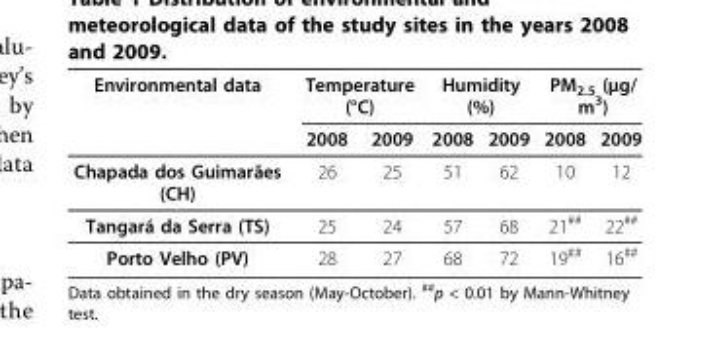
<table><thead><tr><td rowspan="2">Environmental data</td><td colspan="2">Temperature (°C)</td><td colspan="2">Humidity (%)</td><td colspan="2">PM<sub>2.5</sub> (μg/ m<sup>3</sup>)</td></tr><tr><td>2008</td><td>2009</td><td>2008</td><td>2009</td><td>2008</td><td>2009</td></tr></thead><tbody><tr><td>Chapada dos Guimarães (CH)</td><td>26</td><td>25</td><td>51</td><td>62</td><td>10</td><td>12</td></tr><tr><td>Tangará da Serra (TS)</td><td>25</td><td>24</td><td>57</td><td>68</td><td>21<sup>##</sup></td><td>22<sup>##</sup></td></tr><tr><td>Porto Velho (PV)</td><td>28</td><td>27</td><td>68</td><td>72</td><td>19<sup>##</sup></td><td>16<sup>##</sup></td></tr></tbody></table>